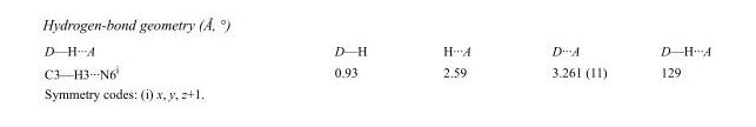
<table><tbody><tr><td>D—H···A</td><td>D—H</td><td>H···A</td><td>D···A</td><td>D—H···A</td></tr><tr><td>C3—H3···N6<sup>i</sup></td><td>0.93</td><td>2.59</td><td>3.261 (11)</td><td>129</td></tr></tbody></table>